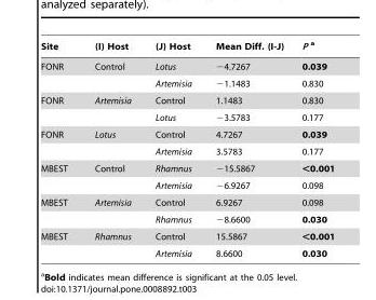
<table><thead><tr><td>Site</td><td>(I) Host</td><td>(J) Host</td><td>Mean Diff. (I-J)</td><td>P a</td></tr></thead><tbody><tr><td rowspan="2">FONR</td><td>Control</td><td>Lotus</td><td>−4.7267</td><td>0.039</td></tr><tr><td></td><td>Artemisia</td><td>−1.1483</td><td>0.830</td></tr><tr><td rowspan="2">FONR</td><td>Artemisia</td><td>Control</td><td>1.1483</td><td>0.830</td></tr><tr><td></td><td>Lotus</td><td>−3.5783</td><td>0.177</td></tr><tr><td rowspan="2">FONR</td><td>Lotus</td><td>Control</td><td>4.7267</td><td>0.039</td></tr><tr><td></td><td>Artemisia</td><td>3.5783</td><td>0.177</td></tr><tr><td rowspan="2">MBEST</td><td>Control</td><td>Rhamnus</td><td>−15.5867</td><td>&lt;0.001</td></tr><tr><td></td><td>Artemisia</td><td>−6.9267</td><td>0.098</td></tr><tr><td rowspan="2">MBEST</td><td>Artemisia</td><td>Control</td><td>6.9267</td><td>0.098</td></tr><tr><td></td><td>Rhamnus</td><td>−8.6600</td><td>0.030</td></tr><tr><td rowspan="2">MBEST</td><td>Rhamnus</td><td>Control</td><td>15.5867</td><td>&lt;0.001</td></tr><tr><td></td><td>Artemisia</td><td>8.6600</td><td>0.030</td></tr></tbody></table>